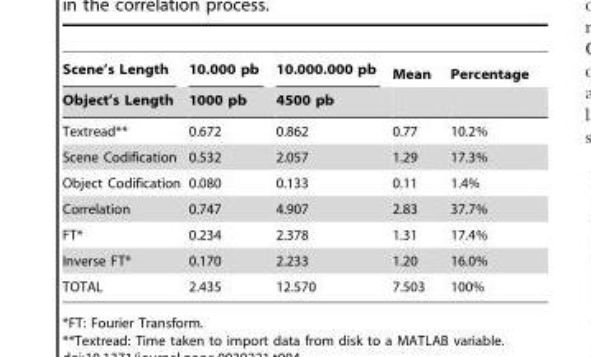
<table><thead><tr><td rowspan="2">Scene’s Length Object’s Length</td><td rowspan="2">10.000 pb 1000 pb</td><td rowspan="2">10.000.000 pb 4500 pb</td><td rowspan="2">Mean</td><td rowspan="2">Percentage</td></tr><tr></tr></thead><tbody><tr><td>Textread**</td><td>0.672</td><td>0.862</td><td>0.77</td><td>10.2%</td></tr><tr><td>Scene Codification</td><td>0.532</td><td>2.057</td><td>1.29</td><td>17.3%</td></tr><tr><td>Object Codification</td><td>0.080</td><td>0.133</td><td>0.11</td><td>1.4%</td></tr><tr><td>Correlation</td><td>0.747</td><td>4.907</td><td>2.83</td><td>37.7%</td></tr><tr><td>FT*</td><td>0.234</td><td>2.378</td><td>1.31</td><td>17.4%</td></tr><tr><td>Inverse FT*</td><td>0.170</td><td>2.233</td><td>1.20</td><td>16.0%</td></tr><tr><td>TOTAL</td><td>2.435</td><td>12.570</td><td>7.503</td><td>100%</td></tr></tbody></table>